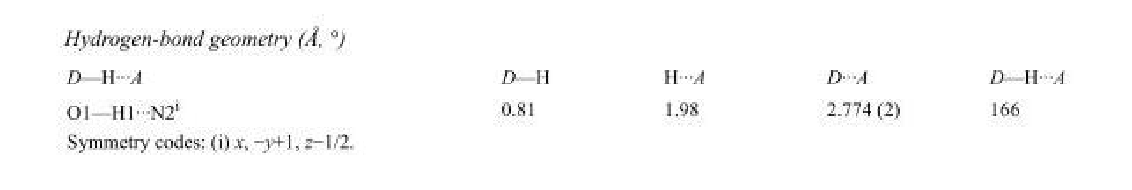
<table><tbody><tr><td>D—H···A</td><td>D—H</td><td>H···A</td><td>D···A</td><td>D—H···A</td></tr><tr><td>O1—H1···N2<sup>i</sup></td><td>0.81</td><td>1.98</td><td>2.774 (2)</td><td>166</td></tr></tbody></table>